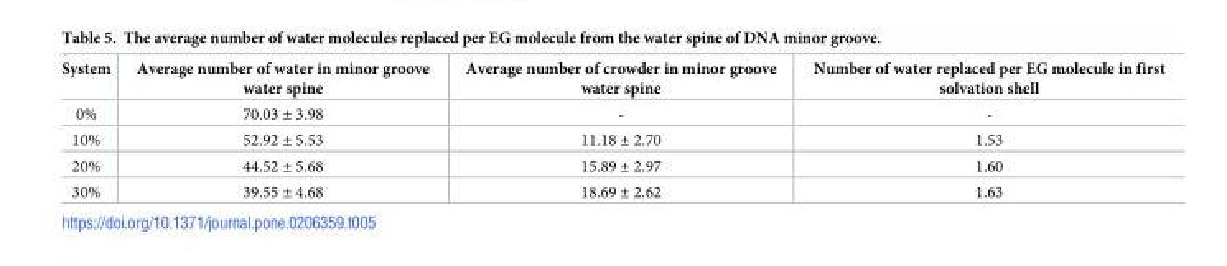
<table><thead><tr><td>System</td><td>Average number of water in minor groove water spine</td><td>Average number of crowder in minor groove water spine</td><td>Number of water replaced per EG molecule in first solvation shell</td></tr></thead><tbody><tr><td>0%</td><td>70.03 ± 3.98</td><td>-</td><td>-</td></tr><tr><td>10%</td><td>52.92 ± 5.53</td><td>11.18 ± 2.70</td><td>1.53</td></tr><tr><td>20%</td><td>44.52 ± 5.68</td><td>15.89 ± 2.97</td><td>1.60</td></tr><tr><td>30%</td><td>39.55 ± 4.68</td><td>18.69 ± 2.62</td><td>1.63</td></tr></tbody></table>